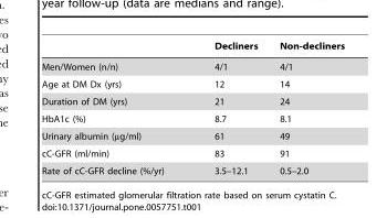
<table><thead><tr><td></td><td>Decliners</td><td>Non-decliners</td></tr></thead><tbody><tr><td>Men/Women (n/n)</td><td>4/1</td><td>4/1</td></tr><tr><td>Age at DM Dx (yrs)</td><td>12</td><td>14</td></tr><tr><td>Duration of DM (yrs)</td><td>21</td><td>24</td></tr><tr><td>HbA1c (%)</td><td>8.7</td><td>8.1</td></tr><tr><td>Urinary albumin (µg/ml)</td><td>61</td><td>49</td></tr><tr><td>cC-GFR (ml/min)</td><td>83</td><td>91</td></tr><tr><td>Rate of cC-GFR decline (%/yr)</td><td>3.5–12.1</td><td>0.5–2.0</td></tr></tbody></table>